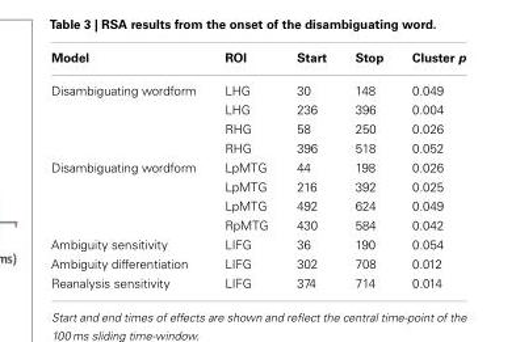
<table><thead><tr><td>Model</td><td>ROI</td><td>Start</td><td>Stop</td><td>Cluster p</td></tr></thead><tbody><tr><td rowspan="4">Disambiguating wordform</td><td>LHG</td><td>30</td><td>148</td><td>0.049</td></tr><tr><td>LHG</td><td>236</td><td>396</td><td>0.004</td></tr><tr><td>RHG</td><td>58</td><td>250</td><td>0.026</td></tr><tr><td>RHG</td><td>396</td><td>518</td><td>0.052</td></tr><tr><td rowspan="4">Disambiguating wordform</td><td>LpMTG</td><td>44</td><td>198</td><td>0.026</td></tr><tr><td>LpMTG</td><td>216</td><td>392</td><td>0.025</td></tr><tr><td>LpMTG</td><td>492</td><td>624</td><td>0.049</td></tr><tr><td>RpMTG</td><td>430</td><td>584</td><td>0.042</td></tr><tr><td>Ambiguity sensitivity</td><td>LIFG</td><td>36</td><td>190</td><td>0.054</td></tr><tr><td>Ambiguity differentiation</td><td>LIFG</td><td>302</td><td>708</td><td>0.012</td></tr><tr><td>Reanalysis sensitivity</td><td>LIFG</td><td>374</td><td>714</td><td>0.014</td></tr></tbody></table>